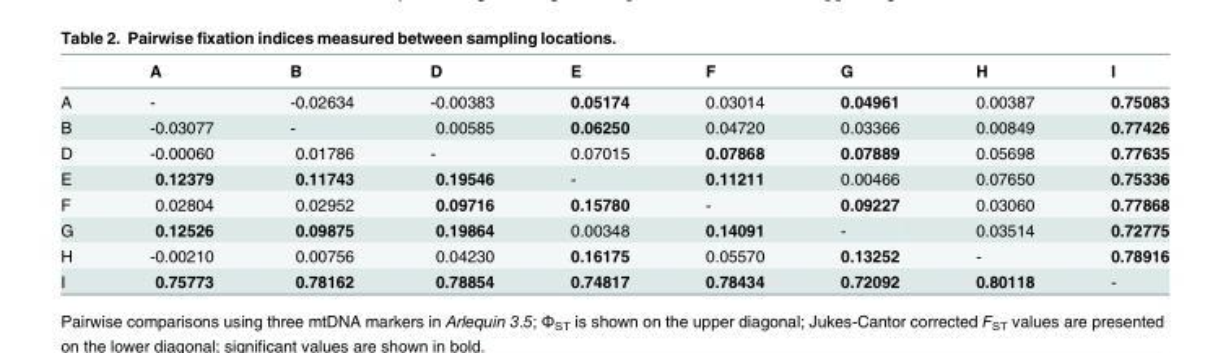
<table><thead><tr><td></td><td>A</td><td>B</td><td>D</td><td>E</td><td>F</td><td>G</td><td>H</td><td>I</td></tr></thead><tbody><tr><td>A</td><td>-</td><td>-0.02634</td><td>-0.00383</td><td>0.05174</td><td>0.03014</td><td>0.04961</td><td>0.00387</td><td>0.75083</td></tr><tr><td>B</td><td>-0.03077</td><td>-</td><td>0.00585</td><td>0.06250</td><td>0.04720</td><td>0.03366</td><td>0.00849</td><td>0.77426</td></tr><tr><td>D</td><td>-0.00060</td><td>0.01786</td><td>-</td><td>0.07015</td><td>0.07868</td><td>0.07889</td><td>0.05698</td><td>0.77635</td></tr><tr><td>E</td><td>0.12379</td><td>0.11743</td><td>0.19546</td><td>-</td><td>0.11211</td><td>0.00466</td><td>0.07650</td><td>0.75336</td></tr><tr><td>F</td><td>0.02804</td><td>0.02952</td><td>0.09716</td><td>0.15780</td><td>-</td><td>0.09227</td><td>0.03060</td><td>0.77868</td></tr><tr><td>G</td><td>0.12526</td><td>0.09875</td><td>0.19864</td><td>0.00348</td><td>0.14091</td><td>-</td><td>0.03514</td><td>0.72775</td></tr><tr><td>H</td><td>-0.00210</td><td>0.00756</td><td>0.04230</td><td>0.16175</td><td>0.05570</td><td>0.13252</td><td>-</td><td>0.78916</td></tr><tr><td>I</td><td>0.75773</td><td>0.78162</td><td>0.78854</td><td>0.74817</td><td>0.78434</td><td>0.72092</td><td>0.80118</td><td>-</td></tr></tbody></table>